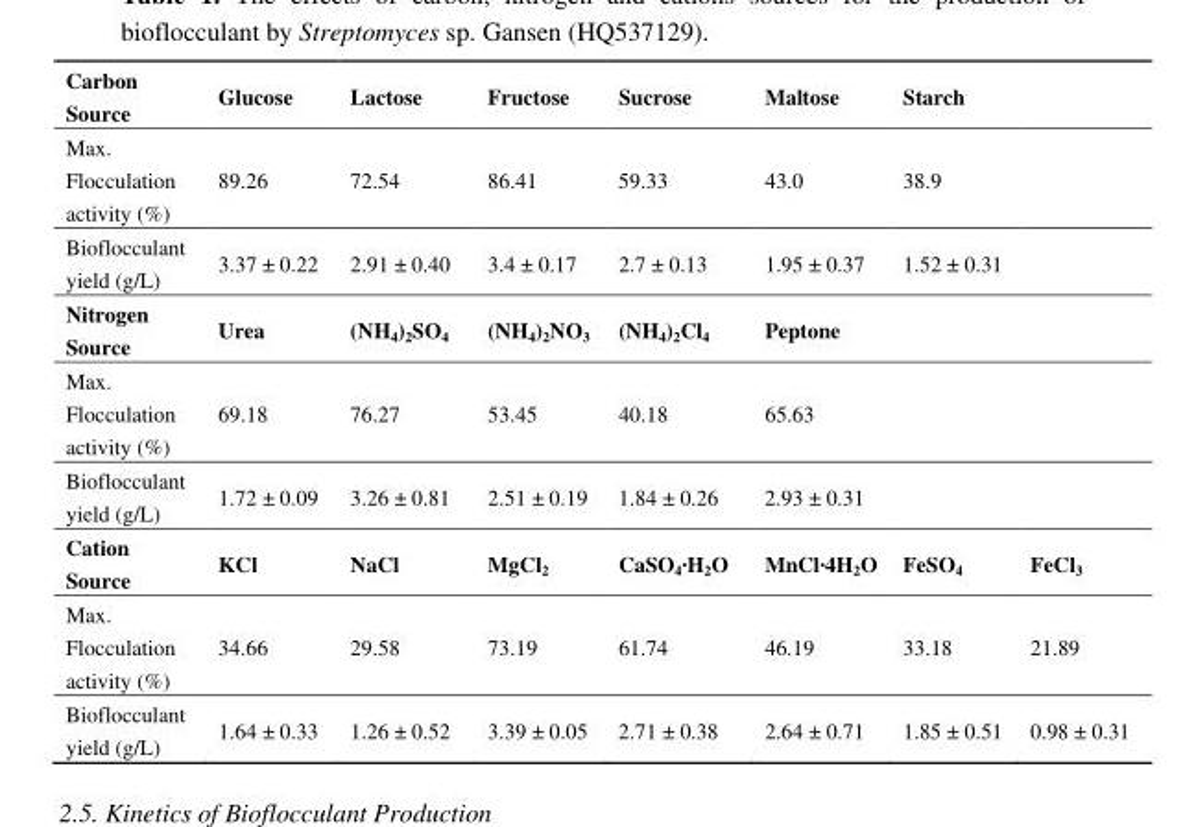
<table><thead><tr><td>Carbon Source</td><td>Glucose</td><td>Lactose</td><td>Fructose</td><td>Sucrose</td><td>Maltose</td><td>Starch</td><td></td></tr></thead><tbody><tr><td>Max. Flocculation activity (%)</td><td>89.26</td><td>72.54</td><td>86.41</td><td>59.33</td><td>43.0</td><td>38.9</td><td></td></tr><tr><td>Bioflocculant yield (g/L)</td><td>3.37 ± 0.22</td><td>2.91 ± 0.40</td><td>3.4 ± 0.17</td><td>2.7 ± 0.13</td><td>1.95 ± 0.37</td><td>1.52 ± 0.31</td><td></td></tr><tr><td>Nitrogen Source</td><td>Urea</td><td>(NH<sub>4</sub>)<sub>2</sub>SO<sub>4</sub></td><td>(NH<sub>4</sub>)<sub>2</sub>NO<sub>3</sub></td><td>(NH<sub>4</sub>)<sub>2</sub>Cl<sub>4</sub></td><td>Peptone</td><td></td><td></td></tr><tr><td>Max. Flocculation activity (%)</td><td>69.18</td><td>76.27</td><td>53.45</td><td>40.18</td><td>65.63</td><td></td><td></td></tr><tr><td>Bioflocculant yield (g/L)</td><td>1.72 ± 0.09</td><td>3.26 ± 0.81</td><td>2.51 ± 0.19</td><td>1.84 ± 0.26</td><td>2.93 ± 0.31</td><td></td><td></td></tr><tr><td>Cation Source</td><td>KCl</td><td>NaCl</td><td>MgCl<sub>2</sub></td><td>CaSO4∙H2O</td><td>MnCl∙4H2O</td><td>FeSO<sub>4</sub></td><td>FeCl<sub>3</sub></td></tr><tr><td>Max. Flocculation activity (%)</td><td>34.66</td><td>29.58</td><td>73.19</td><td>61.74</td><td>46.19</td><td>33.18</td><td>21.89</td></tr><tr><td>Bioflocculant yield (g/L)</td><td>1.64 ± 0.33</td><td>1.26 ± 0.52</td><td>3.39 ± 0.05</td><td>2.71 ± 0.38</td><td>2.64 ± 0.71</td><td>1.85 ± 0.51</td><td>0.98 ± 0.31</td></tr></tbody></table>